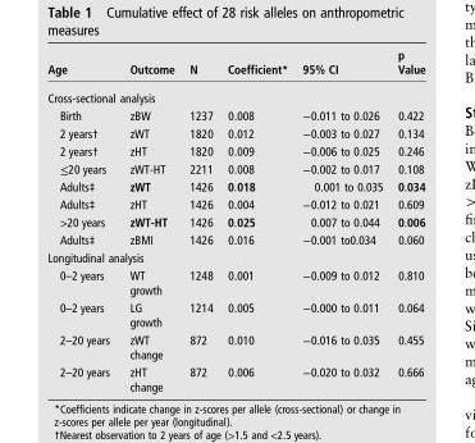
<table><thead><tr><td>Age</td><td>Outcome</td><td>N</td><td>Coefficient*</td><td>95% CI</td><td>p Value</td></tr></thead><tbody><tr><td colspan="6">Cross-sectional analysis</td></tr><tr><td>Birth</td><td>zBW</td><td>1237</td><td>0.008</td><td>−0.011 to 0.026</td><td>0.422</td></tr><tr><td>2 years†</td><td>zWT</td><td>1820</td><td>0.012</td><td>−0.003 to 0.027</td><td>0.134</td></tr><tr><td>2 years†</td><td>zHT</td><td>1820</td><td>0.009</td><td>−0.006 to 0.025</td><td>0.246</td></tr><tr><td>≤20 years</td><td>zWT-HT</td><td>2211</td><td>0.008</td><td>−0.002 to 0.017</td><td>0.108</td></tr><tr><td>Adults‡</td><td>zWT</td><td>1426</td><td>0.018</td><td>0.001 to 0.035</td><td>0.034</td></tr><tr><td>Adults‡</td><td>zHT</td><td>1426</td><td>0.004</td><td>−0.012 to 0.021</td><td>0.609</td></tr><tr><td>&gt;20 years</td><td>zWT-HT</td><td>1426</td><td>0.025</td><td>0.007 to 0.044</td><td>0.006</td></tr><tr><td>Adults‡</td><td>zBMI</td><td>1426</td><td>0.016</td><td>−0.001 to0.034</td><td>0.060</td></tr><tr><td colspan="6">Longitudinal analysis</td></tr><tr><td>0–2 years</td><td>WT growth</td><td>1248</td><td>0.001</td><td>−0.009 to 0.012</td><td>0.810</td></tr><tr><td>0–2 years</td><td>LG growth</td><td>1214</td><td>0.005</td><td>−0.000 to 0.011</td><td>0.064</td></tr><tr><td>2–20 years</td><td>zWT change</td><td>872</td><td>0.010</td><td>−0.016 to 0.035</td><td>0.455</td></tr><tr><td>2–20 years</td><td>zHT change</td><td>872</td><td>0.006</td><td>−0.020 to 0.032</td><td>0.666</td></tr></tbody></table>